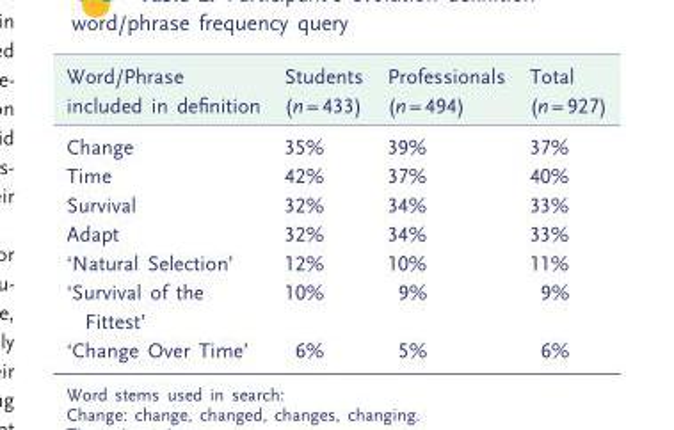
<table><thead><tr><td>Word/Phrase included in definition</td><td>Students (n = 433)</td><td>Professionals (n = 494)</td><td>Total (n = 927)</td></tr></thead><tbody><tr><td>Change</td><td>35%</td><td>39%</td><td>37%</td></tr><tr><td>Time</td><td>42%</td><td>37%</td><td>40%</td></tr><tr><td>Survival</td><td>32%</td><td>34%</td><td>33%</td></tr><tr><td>Adapt</td><td>32%</td><td>34%</td><td>33%</td></tr><tr><td>‘Natural Selection’</td><td>12%</td><td>10%</td><td>11%</td></tr><tr><td>‘Survival of the Fittest’</td><td>10%</td><td>9%</td><td>9%</td></tr><tr><td>‘Change Over Time’</td><td>6%</td><td>5%</td><td>6%</td></tr></tbody></table>